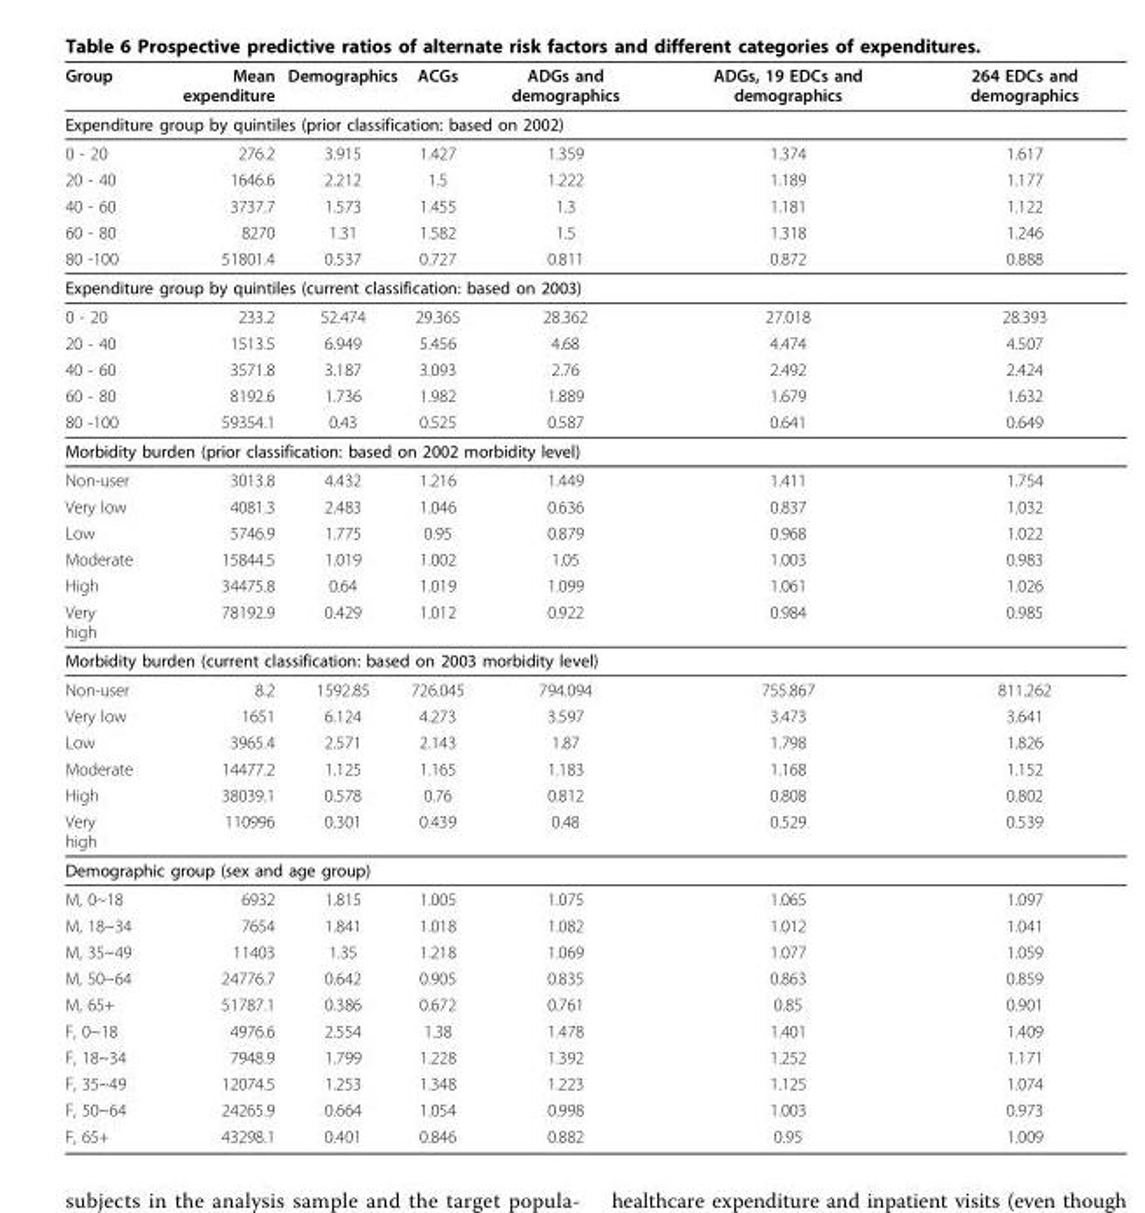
<table><thead><tr><td>Group</td><td>Mean expenditure</td><td>Demographics</td><td>ACGs</td><td>ADGs and demographics</td><td>ADGs, 19 EDCs and demographics</td><td>264 EDCs and demographics</td></tr></thead><tbody><tr><td colspan="7">Expenditure group by quintiles (prior classification: based on 2002)</td></tr><tr><td>0 - 20</td><td>276.2</td><td>3.915</td><td>1.427</td><td>1.359</td><td>1.374</td><td>1.617</td></tr><tr><td>20 - 40</td><td>1646.6</td><td>2.212</td><td>1.5</td><td>1.222</td><td>1.189</td><td>1.177</td></tr><tr><td>40 - 60</td><td>3737.7</td><td>1.573</td><td>1.455</td><td>1.3</td><td>1.181</td><td>1.122</td></tr><tr><td>60 - 80</td><td>8270</td><td>1.31</td><td>1.582</td><td>1.5</td><td>1.318</td><td>1.246</td></tr><tr><td>80 -100</td><td>51801.4</td><td>0.537</td><td>0.727</td><td>0.811</td><td>0.872</td><td>0.888</td></tr><tr><td colspan="7">Expenditure group by quintiles (current classification: based on 2003)</td></tr><tr><td>0 - 20</td><td>233.2</td><td>52.474</td><td>29.365</td><td>28.362</td><td>27.018</td><td>28.393</td></tr><tr><td>20 - 40</td><td>1513.5</td><td>6.949</td><td>5.456</td><td>4.68</td><td>4.474</td><td>4.507</td></tr><tr><td>40 - 60</td><td>3571.8</td><td>3.187</td><td>3.093</td><td>2.76</td><td>2.492</td><td>2.424</td></tr><tr><td>60 - 80</td><td>8192.6</td><td>1.736</td><td>1.982</td><td>1.889</td><td>1.679</td><td>1.632</td></tr><tr><td>80 -100</td><td>59354.1</td><td>0.43</td><td>0.525</td><td>0.587</td><td>0.641</td><td>0.649</td></tr><tr><td colspan="7">Morbidity burden (prior classification: based on 2002 morbidity level)</td></tr><tr><td>Non-user</td><td>3013.8</td><td>4.432</td><td>1.216</td><td>1.449</td><td>1.411</td><td>1.754</td></tr><tr><td>Very low</td><td>4081.3</td><td>2.483</td><td>1.046</td><td>0.636</td><td>0.837</td><td>1.032</td></tr><tr><td>Low</td><td>5746.9</td><td>1.775</td><td>0.95</td><td>0.879</td><td>0.968</td><td>1.022</td></tr><tr><td>Moderate</td><td>15844.5</td><td>1.019</td><td>1.002</td><td>1.05</td><td>1.003</td><td>0.983</td></tr><tr><td>High</td><td>34475.8</td><td>0.64</td><td>1.019</td><td>1.099</td><td>1.061</td><td>1.026</td></tr><tr><td>Very high</td><td>78192.9</td><td>0.429</td><td>1.012</td><td>0.922</td><td>0.984</td><td>0.985</td></tr><tr><td colspan="7">Morbidity burden (current classification: based on 2003 morbidity level)</td></tr><tr><td>Non-user</td><td>8.2</td><td>1592.85</td><td>726.045</td><td>794.094</td><td>755.867</td><td>811.262</td></tr><tr><td>Very low</td><td>1651</td><td>6.124</td><td>4.273</td><td>3.597</td><td>3.473</td><td>3.641</td></tr><tr><td>Low</td><td>3965.4</td><td>2.571</td><td>2.143</td><td>1.87</td><td>1.798</td><td>1.826</td></tr><tr><td>Moderate</td><td>14477.2</td><td>1.125</td><td>1.165</td><td>1.183</td><td>1.168</td><td>1.152</td></tr><tr><td>High</td><td>38039.1</td><td>0.578</td><td>0.76</td><td>0.812</td><td>0.808</td><td>0.802</td></tr><tr><td>Very high</td><td>110996</td><td>0.301</td><td>0.439</td><td>0.48</td><td>0.529</td><td>0.539</td></tr><tr><td colspan="7">Demographic group (sex and age group)</td></tr><tr><td>M, 0~18</td><td>6932</td><td>1.815</td><td>1.005</td><td>1.075</td><td>1.065</td><td>1.097</td></tr><tr><td>M, 18~34</td><td>7654</td><td>1.841</td><td>1.018</td><td>1.082</td><td>1.012</td><td>1.041</td></tr><tr><td>M, 35~49</td><td>11403</td><td>1.35</td><td>1.218</td><td>1.069</td><td>1.077</td><td>1.059</td></tr><tr><td>M, 50~64</td><td>24776.7</td><td>0.642</td><td>0.905</td><td>0.835</td><td>0.863</td><td>0.859</td></tr><tr><td>M, 65+</td><td>51787.1</td><td>0.386</td><td>0.672</td><td>0.761</td><td>0.85</td><td>0.901</td></tr><tr><td>F, 0~18</td><td>4976.6</td><td>2.554</td><td>1.38</td><td>1.478</td><td>1.401</td><td>1.409</td></tr><tr><td>F, 18~34</td><td>7948.9</td><td>1.799</td><td>1.228</td><td>1.392</td><td>1.252</td><td>1.171</td></tr><tr><td>F, 35~49</td><td>12074.5</td><td>1.253</td><td>1.348</td><td>1.223</td><td>1.125</td><td>1.074</td></tr><tr><td>F, 50~64</td><td>24265.9</td><td>0.664</td><td>1.054</td><td>0.998</td><td>1.003</td><td>0.973</td></tr><tr><td>F, 65+</td><td>43298.1</td><td>0.401</td><td>0.846</td><td>0.882</td><td>0.95</td><td>1.009</td></tr></tbody></table>